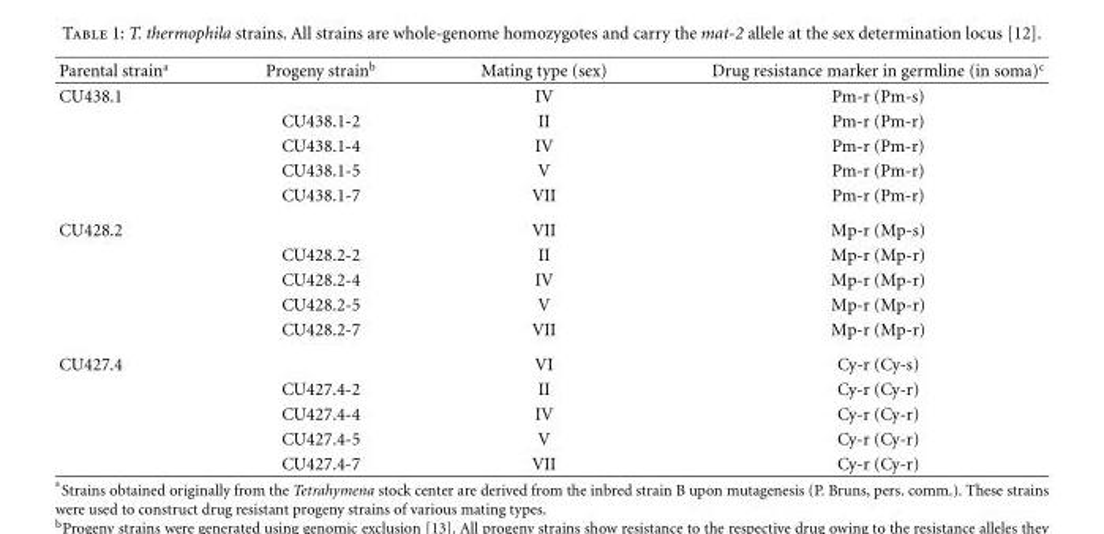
<table><thead><tr><td>Parental strain<sup>a</sup></td><td>Progeny strain<sup>b</sup></td><td>Mating type (sex)</td><td>Drug resistance marker in germline (in soma)<sup>c</sup></td></tr></thead><tbody><tr><td rowspan="5">CU438.1</td><td></td><td>IV</td><td>Pm-r (Pm-s)</td></tr><tr><td>CU438.1-2</td><td>II</td><td>Pm-r (Pm-r)</td></tr><tr><td>CU438.1-4</td><td>IV</td><td>Pm-r (Pm-r)</td></tr><tr><td>CU438.1-5</td><td>V</td><td>Pm-r (Pm-r)</td></tr><tr><td>CU438.1-7</td><td>VII</td><td>Pm-r (Pm-r)</td></tr><tr><td rowspan="5">CU428.2</td><td></td><td>VII</td><td>Mp-r (Mp-s)</td></tr><tr><td>CU428.2-2</td><td>II</td><td>Mp-r (Mp-r)</td></tr><tr><td>CU428.2-4</td><td>IV</td><td>Mp-r (Mp-r)</td></tr><tr><td>CU428.2-5</td><td>V</td><td>Mp-r (Mp-r)</td></tr><tr><td>CU428.2-7</td><td>VII</td><td>Mp-r (Mp-r)</td></tr><tr><td rowspan="5">CU427.4</td><td></td><td>VI</td><td>Cy-r (Cy-s)</td></tr><tr><td>CU427.4-2</td><td>II</td><td>Cy-r (Cy-r)</td></tr><tr><td>CU427.4-4</td><td>IV</td><td>Cy-r (Cy-r)</td></tr><tr><td>CU427.4-5</td><td>V</td><td>Cy-r (Cy-r)</td></tr><tr><td>CU427.4-7</td><td>VII</td><td>Cy-r (Cy-r)</td></tr></tbody></table>